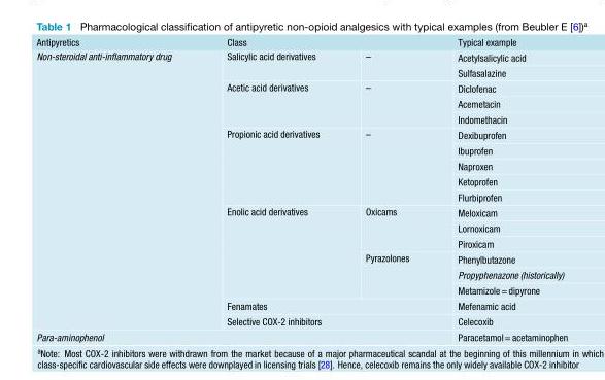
<table><thead><tr><td>Antipyretics</td><td>Class</td><td></td><td>Typical example</td></tr></thead><tbody><tr><td rowspan="18">Non-steroidal anti-inflammatory drug</td><td rowspan="2">Salicylic acid derivatives</td><td rowspan="2">–</td><td>Acetylsalicylic acid</td></tr><tr><td>Sulfasalazine</td></tr><tr><td rowspan="3">Acetic acid derivatives</td><td rowspan="3">–</td><td>Diclofenac</td></tr><tr><td>Acemetacin</td></tr><tr><td>Indomethacin</td></tr><tr><td rowspan="5">Propionic acid derivatives</td><td rowspan="5">–</td><td>Dexibuprofen</td></tr><tr><td>Ibuprofen</td></tr><tr><td>Naproxen</td></tr><tr><td>Ketoprofen</td></tr><tr><td>Flurbiprofen</td></tr><tr><td rowspan="6">Enolic acid derivatives</td><td rowspan="3">Oxicams</td><td>Meloxicam</td></tr><tr><td>Lornoxicam</td></tr><tr><td>Piroxicam</td></tr><tr><td rowspan="3">Pyrazolones</td><td>Phenylbutazone</td></tr><tr><td>Propyphenazone (historically)</td></tr><tr><td>Metamizole= dipyrone</td></tr><tr><td colspan="2">Fenamates</td><td>Mefenamic acid</td></tr><tr><td colspan="2">Selective COX-2 inhibitors</td><td>Celecoxib</td></tr><tr><td colspan="3">Para-aminophenol</td><td>Paracetamol= acetaminophen</td></tr></tbody></table>